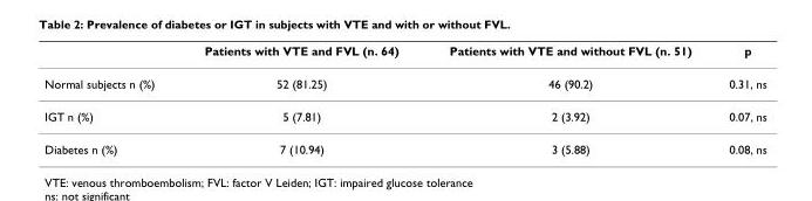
<table><thead><tr><td></td><td>Patients with VTE and FVL (n. 64)</td><td>Patients with VTE and without FVL (n. 51)</td><td>p</td></tr></thead><tbody><tr><td>Normal subjects n (%)</td><td>52 (81.25)</td><td>46 (90.2)</td><td>0.31, ns</td></tr><tr><td>IGT n (%)</td><td>5 (7.81)</td><td>2 (3.92)</td><td>0.07, ns</td></tr><tr><td>Diabetes n (%)</td><td>7 (10.94)</td><td>3 (5.88)</td><td>0.08, ns</td></tr></tbody></table>